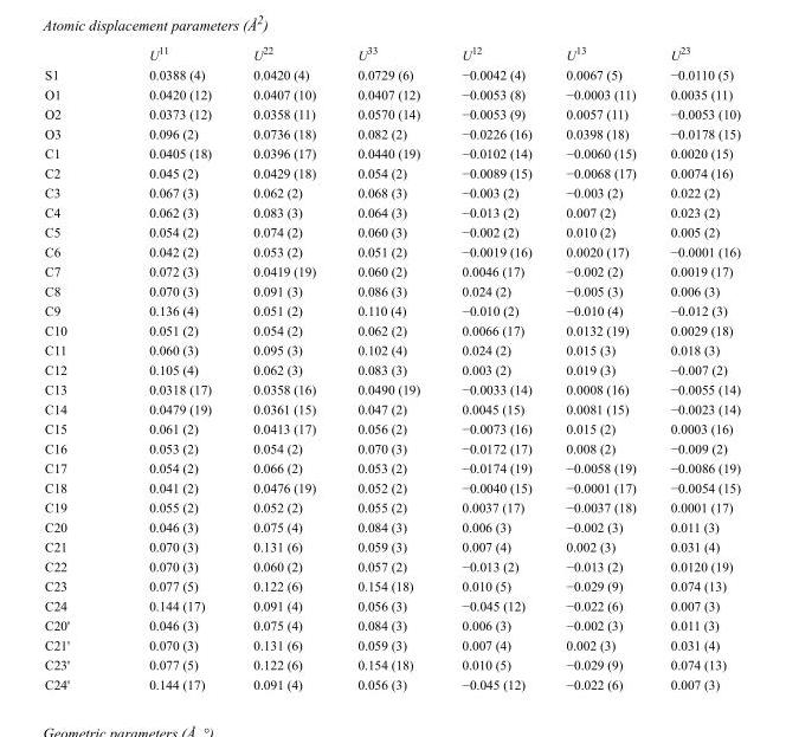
<table><thead><tr><td></td><td>U<sup>11</sup></td><td>U<sup>22</sup></td><td>U<sup>33</sup></td><td>U<sup>12</sup></td><td>U<sup>13</sup></td><td>U<sup>23</sup></td></tr></thead><tbody><tr><td>S1</td><td>0.0388 (4)</td><td>0.0420 (4)</td><td>0.0729 (6)</td><td>−0.0042 (4)</td><td>0.0067 (5)</td><td>−0.0110 (5)</td></tr><tr><td>O1</td><td>0.0420 (12)</td><td>0.0407 (10)</td><td>0.0407 (12)</td><td>−0.0053 (8)</td><td>−0.0003 (11)</td><td>0.0035 (11)</td></tr><tr><td>O2</td><td>0.0373 (12)</td><td>0.0358 (11)</td><td>0.0570 (14)</td><td>−0.0053 (9)</td><td>0.0057 (11)</td><td>−0.0053 (10)</td></tr><tr><td>O3</td><td>0.096 (2)</td><td>0.0736 (18)</td><td>0.082 (2)</td><td>−0.0226 (16)</td><td>0.0398 (18)</td><td>−0.0178 (15)</td></tr><tr><td>C1</td><td>0.0405 (18)</td><td>0.0396 (17)</td><td>0.0440 (19)</td><td>−0.0102 (14)</td><td>−0.0060 (15)</td><td>0.0020 (15)</td></tr><tr><td>C2</td><td>0.045 (2)</td><td>0.0429 (18)</td><td>0.054 (2)</td><td>−0.0089 (15)</td><td>−0.0068 (17)</td><td>0.0074 (16)</td></tr><tr><td>C3</td><td>0.067 (3)</td><td>0.062 (2)</td><td>0.068 (3)</td><td>−0.003 (2)</td><td>−0.003 (2)</td><td>0.022 (2)</td></tr><tr><td>C4</td><td>0.062 (3)</td><td>0.083 (3)</td><td>0.064 (3)</td><td>−0.013 (2)</td><td>0.007 (2)</td><td>0.023 (2)</td></tr><tr><td>C5</td><td>0.054 (2)</td><td>0.074 (2)</td><td>0.060 (3)</td><td>−0.002 (2)</td><td>0.010 (2)</td><td>0.005 (2)</td></tr><tr><td>C6</td><td>0.042 (2)</td><td>0.053 (2)</td><td>0.051 (2)</td><td>−0.0019 (16)</td><td>0.0020 (17)</td><td>−0.0001 (16)</td></tr><tr><td>C7</td><td>0.072 (3)</td><td>0.0419 (19)</td><td>0.060 (2)</td><td>0.0046 (17)</td><td>−0.002 (2)</td><td>0.0019 (17)</td></tr><tr><td>C8</td><td>0.070 (3)</td><td>0.091 (3)</td><td>0.086 (3)</td><td>0.024 (2)</td><td>−0.005 (3)</td><td>0.006 (3)</td></tr><tr><td>C9</td><td>0.136 (4)</td><td>0.051 (2)</td><td>0.110 (4)</td><td>−0.010 (2)</td><td>−0.010 (4)</td><td>−0.012 (3)</td></tr><tr><td>C10</td><td>0.051 (2)</td><td>0.054 (2)</td><td>0.062 (2)</td><td>0.0066 (17)</td><td>0.0132 (19)</td><td>0.0029 (18)</td></tr><tr><td>C11</td><td>0.060 (3)</td><td>0.095 (3)</td><td>0.102 (4)</td><td>0.024 (2)</td><td>0.015 (3)</td><td>0.018 (3)</td></tr><tr><td>C12</td><td>0.105 (4)</td><td>0.062 (3)</td><td>0.083 (3)</td><td>0.003 (2)</td><td>0.019 (3)</td><td>−0.007 (2)</td></tr><tr><td>C13</td><td>0.0318 (17)</td><td>0.0358 (16)</td><td>0.0490 (19)</td><td>−0.0033 (14)</td><td>0.0008 (16)</td><td>−0.0055 (14)</td></tr><tr><td>C14</td><td>0.0479 (19)</td><td>0.0361 (15)</td><td>0.047 (2)</td><td>0.0045 (15)</td><td>0.0081 (15)</td><td>−0.0023 (14)</td></tr><tr><td>C15</td><td>0.061 (2)</td><td>0.0413 (17)</td><td>0.056 (2)</td><td>−0.0073 (16)</td><td>0.015 (2)</td><td>0.0003 (16)</td></tr><tr><td>C16</td><td>0.053 (2)</td><td>0.054 (2)</td><td>0.070 (3)</td><td>−0.0172 (17)</td><td>0.008 (2)</td><td>−0.009 (2)</td></tr><tr><td>C17</td><td>0.054 (2)</td><td>0.066 (2)</td><td>0.053 (2)</td><td>−0.0174 (19)</td><td>−0.0058 (19)</td><td>−0.0086 (19)</td></tr><tr><td>C18</td><td>0.041 (2)</td><td>0.0476 (19)</td><td>0.052 (2)</td><td>−0.0040 (15)</td><td>−0.0001 (17)</td><td>−0.0054 (15)</td></tr><tr><td>C19</td><td>0.055 (2)</td><td>0.052 (2)</td><td>0.055 (2)</td><td>0.0037 (17)</td><td>−0.0037 (18)</td><td>0.0001 (17)</td></tr><tr><td>C20</td><td>0.046 (3)</td><td>0.075 (4)</td><td>0.084 (3)</td><td>0.006 (3)</td><td>−0.002 (3)</td><td>0.011 (3)</td></tr><tr><td>C21</td><td>0.070 (3)</td><td>0.131 (6)</td><td>0.059 (3)</td><td>0.007 (4)</td><td>0.002 (3)</td><td>0.031 (4)</td></tr><tr><td>C22</td><td>0.070 (3)</td><td>0.060 (2)</td><td>0.057 (2)</td><td>−0.013 (2)</td><td>−0.013 (2)</td><td>0.0120 (19)</td></tr><tr><td>C23</td><td>0.077 (5)</td><td>0.122 (6)</td><td>0.154 (18)</td><td>0.010 (5)</td><td>−0.029 (9)</td><td>0.074 (13)</td></tr><tr><td>C24</td><td>0.144 (17)</td><td>0.091 (4)</td><td>0.056 (3)</td><td>−0.045 (12)</td><td>−0.022 (6)</td><td>0.007 (3)</td></tr><tr><td>C20&#x27;</td><td>0.046 (3)</td><td>0.075 (4)</td><td>0.084 (3)</td><td>0.006 (3)</td><td>−0.002 (3)</td><td>0.011 (3)</td></tr><tr><td>C21&#x27;</td><td>0.070 (3)</td><td>0.131 (6)</td><td>0.059 (3)</td><td>0.007 (4)</td><td>0.002 (3)</td><td>0.031 (4)</td></tr><tr><td>C23&#x27;</td><td>0.077 (5)</td><td>0.122 (6)</td><td>0.154 (18)</td><td>0.010 (5)</td><td>−0.029 (9)</td><td>0.074 (13)</td></tr><tr><td>C24&#x27;</td><td>0.144 (17)</td><td>0.091 (4)</td><td>0.056 (3)</td><td>−0.045 (12)</td><td>−0.022 (6)</td><td>0.007 (3)</td></tr></tbody></table>